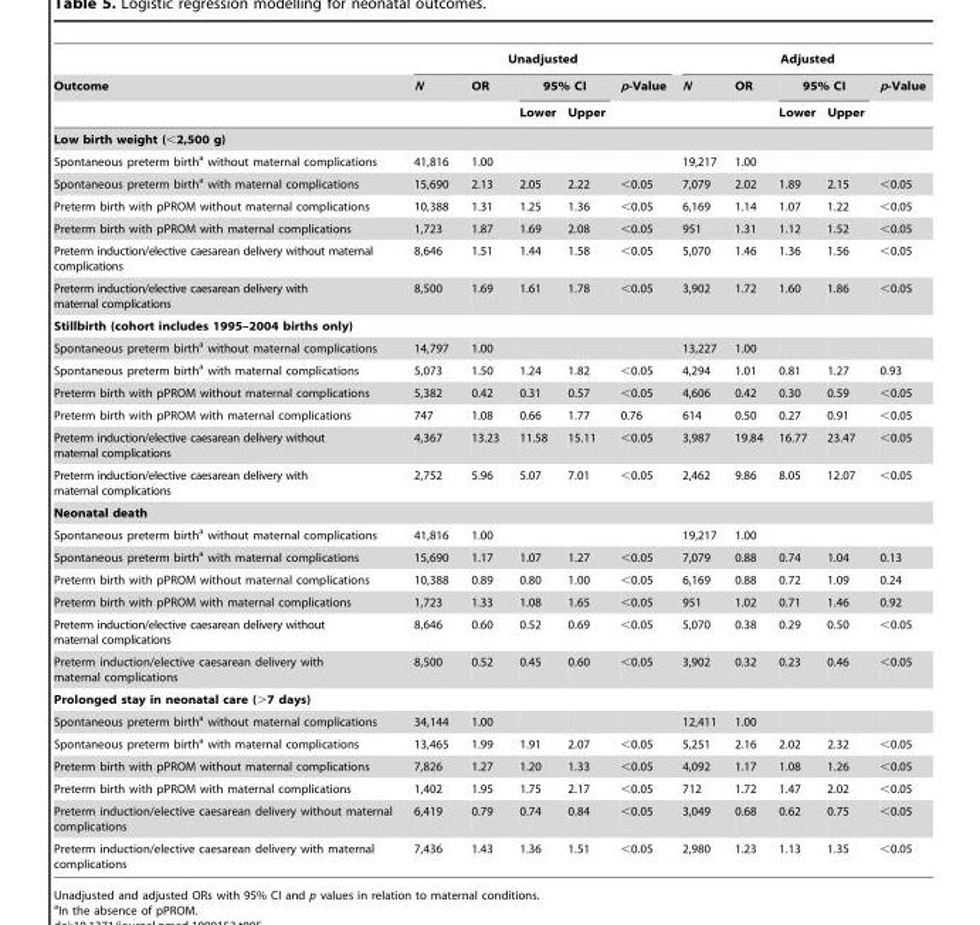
<table><thead><tr><td rowspan="3">Outcome</td><td colspan="5">Unadjusted</td><td colspan="5">Adjusted</td></tr><tr><td rowspan="2">N</td><td rowspan="2">OR</td><td colspan="2">95% CI</td><td rowspan="2">p-Value</td><td rowspan="2">N</td><td rowspan="2">OR</td><td colspan="2">95% CI</td><td rowspan="2">p-Value</td></tr><tr><td>Lower</td><td>Upper</td><td>Lower</td><td>Upper</td></tr></thead><tbody><tr><td colspan="11">Low birth weight (&lt;2,500 g)</td></tr><tr><td>Spontaneous preterm birth<sup>a</sup> without maternal complications</td><td>41,816</td><td>1.00</td><td></td><td></td><td></td><td>19,217</td><td>1.00</td><td></td><td></td><td></td></tr><tr><td>Spontaneous preterm birth<sup>a</sup> with maternal complications</td><td>15,690</td><td>2.13</td><td>2.05</td><td>2.22</td><td>&lt;0.05</td><td>7,079</td><td>2.02</td><td>1.89</td><td>2.15</td><td>&lt;0.05</td></tr><tr><td>Preterm birth with pPROM without maternal complications</td><td>10,388</td><td>1.31</td><td>1.25</td><td>1.36</td><td>&lt;0.05</td><td>6,169</td><td>1.14</td><td>1.07</td><td>1.22</td><td>&lt;0.05</td></tr><tr><td>Preterm birth with pPROM with maternal complications</td><td>1,723</td><td>1.87</td><td>1.69</td><td>2.08</td><td>&lt;0.05</td><td>951</td><td>1.31</td><td>1.12</td><td>1.52</td><td>&lt;0.05</td></tr><tr><td>Preterm induction/elective caesarean delivery without maternal complications</td><td>8,646</td><td>1.51</td><td>1.44</td><td>1.58</td><td>&lt;0.05</td><td>5,070</td><td>1.46</td><td>1.36</td><td>1.56</td><td>&lt;0.05</td></tr><tr><td>Preterm induction/elective caesarean delivery with maternal complications</td><td>8,500</td><td>1.69</td><td>1.61</td><td>1.78</td><td>&lt;0.05</td><td>3,902</td><td>1.72</td><td>1.60</td><td>1.86</td><td>&lt;0.05</td></tr><tr><td colspan="11">Stillbirth (cohort includes 1995–2004 births only)</td></tr><tr><td>Spontaneous preterm birth<sup>a</sup> without maternal complications</td><td>14,797</td><td>1.00</td><td></td><td></td><td></td><td>13,227</td><td>1.00</td><td></td><td></td><td></td></tr><tr><td>Spontaneous preterm birth<sup>a</sup> with maternal complications</td><td>5,073</td><td>1.50</td><td>1.24</td><td>1.82</td><td>&lt;0.05</td><td>4,294</td><td>1.01</td><td>0.81</td><td>1.27</td><td>0.93</td></tr><tr><td>Preterm birth with pPROM without maternal complications</td><td>5,382</td><td>0.42</td><td>0.31</td><td>0.57</td><td>&lt;0.05</td><td>4,606</td><td>0.42</td><td>0.30</td><td>0.59</td><td>&lt;0.05</td></tr><tr><td>Preterm birth with pPROM with maternal complications</td><td>747</td><td>1.08</td><td>0.66</td><td>1.77</td><td>0.76</td><td>614</td><td>0.50</td><td>0.27</td><td>0.91</td><td>&lt;0.05</td></tr><tr><td>Preterm induction/elective caesarean delivery without maternal complications</td><td>4,367</td><td>13.23</td><td>11.58</td><td>15.11</td><td>&lt;0.05</td><td>3,987</td><td>19.84</td><td>16.77</td><td>23.47</td><td>&lt;0.05</td></tr><tr><td>Preterm induction/elective caesarean delivery with maternal complications</td><td>2,752</td><td>5.96</td><td>5.07</td><td>7.01</td><td>&lt;0.05</td><td>2,462</td><td>9.86</td><td>8.05</td><td>12.07</td><td>&lt;0.05</td></tr><tr><td colspan="11">Neonatal death</td></tr><tr><td>Spontaneous preterm birth<sup>a</sup> without maternal complications</td><td>41,816</td><td>1.00</td><td></td><td></td><td></td><td>19,217</td><td>1.00</td><td></td><td></td><td></td></tr><tr><td>Spontaneous preterm birth<sup>a</sup> with maternal complications</td><td>15,690</td><td>1.17</td><td>1.07</td><td>1.27</td><td>&lt;0.05</td><td>7,079</td><td>0.88</td><td>0.74</td><td>1.04</td><td>0.13</td></tr><tr><td>Preterm birth with pPROM without maternal complications</td><td>10,388</td><td>0.89</td><td>0.80</td><td>1.00</td><td>&lt;0.05</td><td>6,169</td><td>0.88</td><td>0.72</td><td>1.09</td><td>0.24</td></tr><tr><td>Preterm birth with pPROM with maternal complications</td><td>1,723</td><td>1.33</td><td>1.08</td><td>1.65</td><td>&lt;0.05</td><td>951</td><td>1.02</td><td>0.71</td><td>1.46</td><td>0.92</td></tr><tr><td>Preterm induction/elective caesarean delivery without maternal complications</td><td>8,646</td><td>0.60</td><td>0.52</td><td>0.69</td><td>&lt;0.05</td><td>5,070</td><td>0.38</td><td>0.29</td><td>0.50</td><td>&lt;0.05</td></tr><tr><td>Preterm induction/elective caesarean delivery with maternal complications</td><td>8,500</td><td>0.52</td><td>0.45</td><td>0.60</td><td>&lt;0.05</td><td>3,902</td><td>0.32</td><td>0.23</td><td>0.46</td><td>&lt;0.05</td></tr><tr><td colspan="11">Prolonged stay in neonatal care (&gt;7 days)</td></tr><tr><td>Spontaneous preterm birth<sup>a</sup> without maternal complications</td><td>34,144</td><td>1.00</td><td></td><td></td><td></td><td>12,411</td><td>1.00</td><td></td><td></td><td></td></tr><tr><td>Spontaneous preterm birth<sup>a</sup> with maternal complications</td><td>13,465</td><td>1.99</td><td>1.91</td><td>2.07</td><td>&lt;0.05</td><td>5,251</td><td>2.16</td><td>2.02</td><td>2.32</td><td>&lt;0.05</td></tr><tr><td>Preterm birth with pPROM without maternal complications</td><td>7,826</td><td>1.27</td><td>1.20</td><td>1.33</td><td>&lt;0.05</td><td>4,092</td><td>1.17</td><td>1.08</td><td>1.26</td><td>&lt;0.05</td></tr><tr><td>Preterm birth with pPROM with maternal complications</td><td>1,402</td><td>1.95</td><td>1.75</td><td>2.17</td><td>&lt;0.05</td><td>712</td><td>1.72</td><td>1.47</td><td>2.02</td><td>&lt;0.05</td></tr><tr><td>Preterm induction/elective caesarean delivery without maternal complications</td><td>6,419</td><td>0.79</td><td>0.74</td><td>0.84</td><td>&lt;0.05</td><td>3,049</td><td>0.68</td><td>0.62</td><td>0.75</td><td>&lt;0.05</td></tr><tr><td>Preterm induction/elective caesarean delivery with maternal complications</td><td>7,436</td><td>1.43</td><td>1.36</td><td>1.51</td><td>&lt;0.05</td><td>2,980</td><td>1.23</td><td>1.13</td><td>1.35</td><td>&lt;0.05</td></tr></tbody></table>